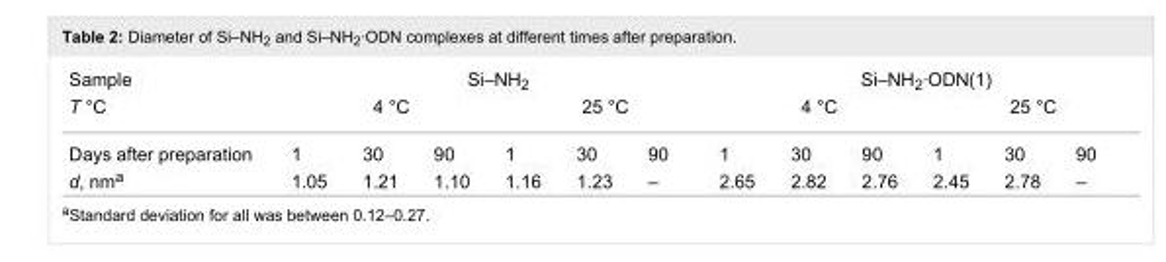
<table><tbody><tr><td>Sample</td><td colspan="6">Si–NH<sub>2</sub></td><td colspan="6">Si–NH<sub>2</sub>·ODN(1)</td></tr><tr><td>T °C</td><td colspan="3">4 °C</td><td colspan="3">25 °C</td><td colspan="3">4 °C</td><td colspan="3">25 °C</td></tr><tr><td>Days after preparation</td><td>1</td><td>30</td><td>90</td><td>1</td><td>30</td><td>90</td><td>1</td><td>30</td><td>90</td><td>1</td><td>30</td><td>90</td></tr><tr><td>d, nm<sup>a</sup></td><td>1.05</td><td>1.21</td><td>1.10</td><td>1.16</td><td>1.23</td><td>–</td><td>2.65</td><td>2.82</td><td>2.76</td><td>2.45</td><td>2.78</td><td>–</td></tr></tbody></table>